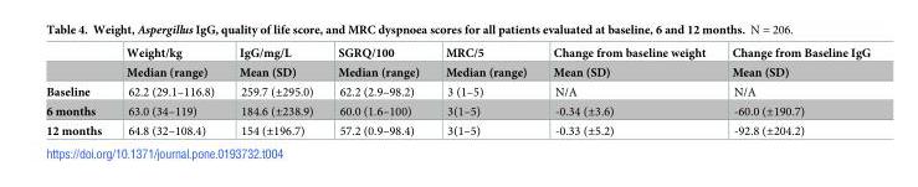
<table><thead><tr><td rowspan="2"></td><td rowspan="2">Weight/kg Median (range)</td><td rowspan="2">IgG/mg/L Mean (SD)</td><td rowspan="2">SGRQ/100 Median (range)</td><td rowspan="2">MRC/5 Median (range)</td><td rowspan="2">Change from baseline weight Mean (SD)</td><td rowspan="2">Change from Baseline IgG Mean (SD)</td></tr><tr></tr></thead><tbody><tr><td>Baseline</td><td>62.2 (29.1–116.8)</td><td>259.7 (±295.0)</td><td>62.2 (2.9–98.2)</td><td>3 (1–5)</td><td>N/A</td><td>N/A</td></tr><tr><td>6 months</td><td>63.0 (34–119)</td><td>184.6 (±238.9)</td><td>60.0 (1.6–100)</td><td>3(1–5)</td><td>-0.34 (±3.6)</td><td>-60.0 (±190.7)</td></tr><tr><td>12 months</td><td>64.8 (32–108.4)</td><td>154 (±196.7)</td><td>57.2 (0.9–98.4)</td><td>3(1–5)</td><td>-0.33 (±5.2)</td><td>-92.8 (±204.2)</td></tr></tbody></table>